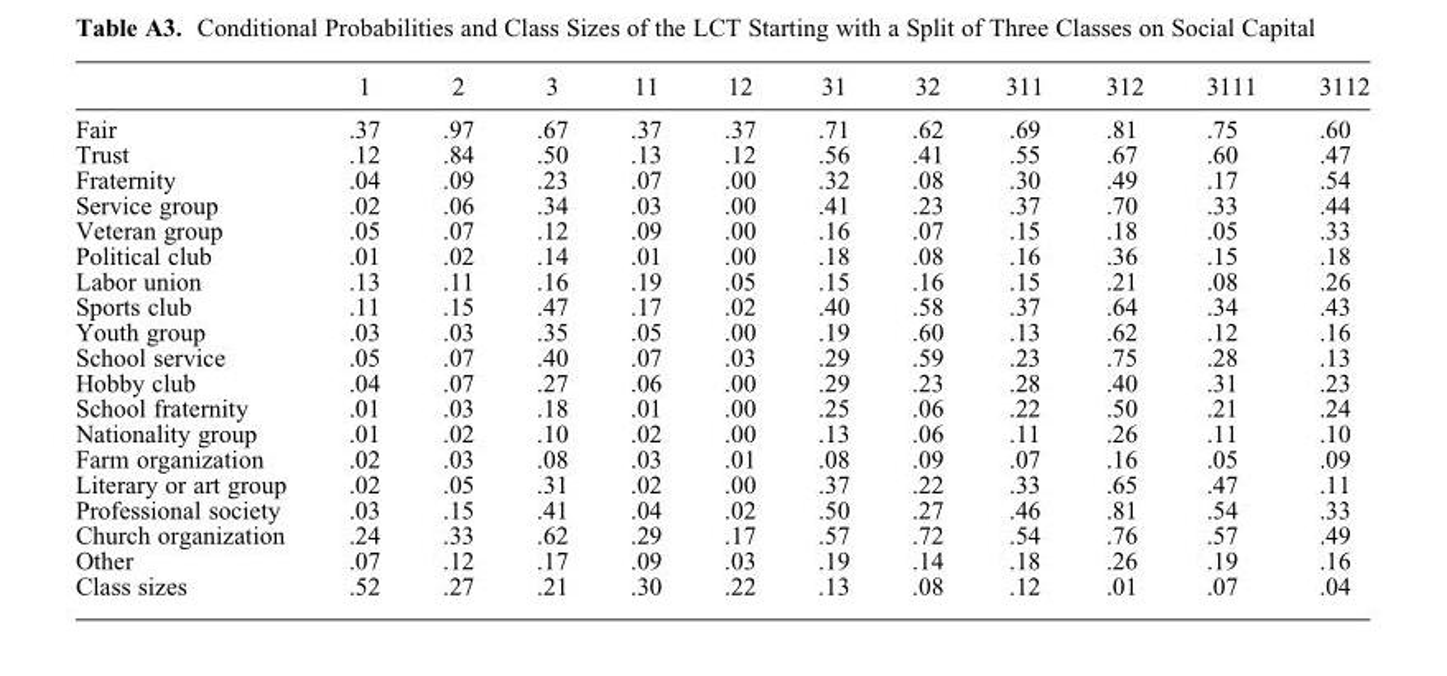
<table><thead><tr><td></td><td>1</td><td>2</td><td>3</td><td>11</td><td>12</td><td>31</td><td>32</td><td>311</td><td>312</td><td>3111</td><td>3112</td></tr></thead><tbody><tr><td>Fair</td><td>.37</td><td>.97</td><td>.67</td><td>.37</td><td>.37</td><td>.71</td><td>.62</td><td>.69</td><td>.81</td><td>.75</td><td>.60</td></tr><tr><td>Trust</td><td>.12</td><td>.84</td><td>.50</td><td>.13</td><td>.12</td><td>.56</td><td>.41</td><td>.55</td><td>.67</td><td>.60</td><td>.47</td></tr><tr><td>Fraternity</td><td>.04</td><td>.09</td><td>.23</td><td>.07</td><td>.00</td><td>.32</td><td>.08</td><td>.30</td><td>.49</td><td>.17</td><td>.54</td></tr><tr><td>Service group</td><td>.02</td><td>.06</td><td>.34</td><td>.03</td><td>.00</td><td>.41</td><td>.23</td><td>.37</td><td>.70</td><td>.33</td><td>.44</td></tr><tr><td>Veteran group</td><td>.05</td><td>.07</td><td>.12</td><td>.09</td><td>.00</td><td>.16</td><td>.07</td><td>.15</td><td>.18</td><td>.05</td><td>.33</td></tr><tr><td>Political club</td><td>.01</td><td>.02</td><td>.14</td><td>.01</td><td>.00</td><td>.18</td><td>.08</td><td>.16</td><td>.36</td><td>.15</td><td>.18</td></tr><tr><td>Labor union</td><td>.13</td><td>.11</td><td>.16</td><td>.19</td><td>.05</td><td>.15</td><td>.16</td><td>.15</td><td>.21</td><td>.08</td><td>.26</td></tr><tr><td>Sports club</td><td>.11</td><td>.15</td><td>.47</td><td>.17</td><td>.02</td><td>.40</td><td>.58</td><td>.37</td><td>.64</td><td>.34</td><td>.43</td></tr><tr><td>Youth group</td><td>.03</td><td>.03</td><td>.35</td><td>.05</td><td>.00</td><td>.19</td><td>.60</td><td>.13</td><td>.62</td><td>.12</td><td>.16</td></tr><tr><td>School service</td><td>.05</td><td>.07</td><td>.40</td><td>.07</td><td>.03</td><td>.29</td><td>.59</td><td>.23</td><td>.75</td><td>.28</td><td>.13</td></tr><tr><td>Hobby club</td><td>.04</td><td>.07</td><td>.27</td><td>.06</td><td>.00</td><td>.29</td><td>.23</td><td>.28</td><td>.40</td><td>.31</td><td>.23</td></tr><tr><td>School fraternity</td><td>.01</td><td>.03</td><td>.18</td><td>.01</td><td>.00</td><td>.25</td><td>.06</td><td>.22</td><td>.50</td><td>.21</td><td>.24</td></tr><tr><td>Nationality group</td><td>.01</td><td>.02</td><td>.10</td><td>.02</td><td>.00</td><td>.13</td><td>.06</td><td>.11</td><td>.26</td><td>.11</td><td>.10</td></tr><tr><td>Farm organization</td><td>.02</td><td>.03</td><td>.08</td><td>.03</td><td>.01</td><td>.08</td><td>.09</td><td>.07</td><td>.16</td><td>.05</td><td>.09</td></tr><tr><td>Literary or art group</td><td>.02</td><td>.05</td><td>.31</td><td>.02</td><td>.00</td><td>.37</td><td>.22</td><td>.33</td><td>.65</td><td>.47</td><td>.11</td></tr><tr><td>Professional society</td><td>.03</td><td>.15</td><td>.41</td><td>.04</td><td>.02</td><td>.50</td><td>.27</td><td>.46</td><td>.81</td><td>.54</td><td>.33</td></tr><tr><td>Church organization</td><td>.24</td><td>.33</td><td>.62</td><td>.29</td><td>.17</td><td>.57</td><td>.72</td><td>.54</td><td>.76</td><td>.57</td><td>.49</td></tr><tr><td>Other</td><td>.07</td><td>.12</td><td>.17</td><td>.09</td><td>.03</td><td>.19</td><td>.14</td><td>.18</td><td>.26</td><td>.19</td><td>.16</td></tr><tr><td>Class sizes</td><td>.52</td><td>.27</td><td>.21</td><td>.30</td><td>.22</td><td>.13</td><td>.08</td><td>.12</td><td>.01</td><td>.07</td><td>.04</td></tr></tbody></table>